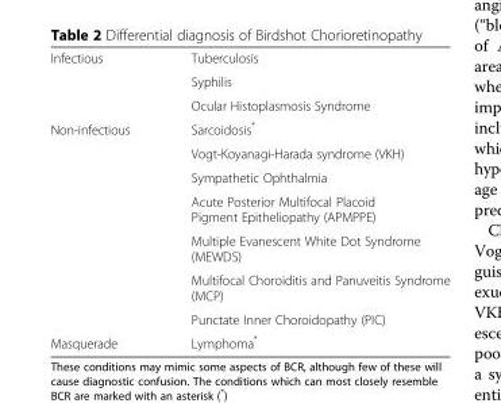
<table><tbody><tr><td rowspan="3">Infectious</td><td>Tuberculosis</td></tr><tr><td>Syphilis</td></tr><tr><td>Ocular Histoplasmosis Syndrome</td></tr><tr><td rowspan="7">Non-infectious</td><td>Sarcoidosis*</td></tr><tr><td>Vogt-Koyanagi-Harada syndrome (VKH)</td></tr><tr><td>Sympathetic Ophthalmia</td></tr><tr><td>Acute Posterior Multifocal Placoid Pigment Epitheliopathy (APMPPE)</td></tr><tr><td>Multiple Evanescent White Dot Syndrome (MEWDS)</td></tr><tr><td>Multifocal Choroiditis and Panuveitis Syndrome (MCP)</td></tr><tr><td>Punctate Inner Choroidopathy (PIC)</td></tr><tr><td>Masquerade</td><td>Lymphoma*</td></tr></tbody></table>